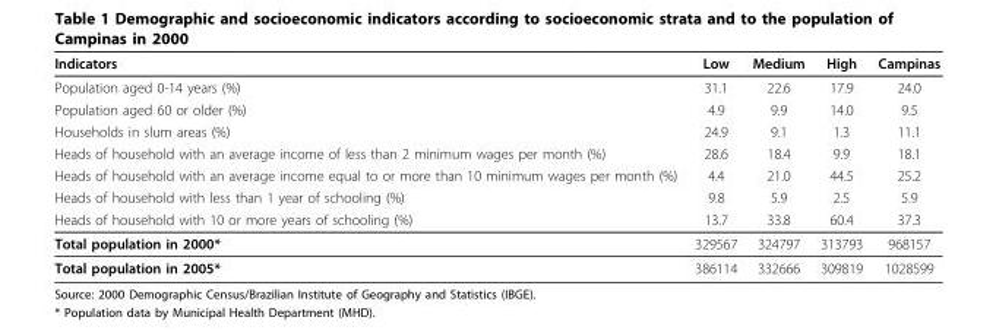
<table><thead><tr><td>Indicators</td><td>Low</td><td>Medium</td><td>High</td><td>Campinas</td></tr></thead><tbody><tr><td>Population aged 0-14 years (%)</td><td>31.1</td><td>22.6</td><td>17.9</td><td>24.0</td></tr><tr><td>Population aged 60 or older (%)</td><td>4.9</td><td>9.9</td><td>14.0</td><td>9.5</td></tr><tr><td>Households in slum areas (%)</td><td>24.9</td><td>9.1</td><td>1.3</td><td>11.1</td></tr><tr><td>Heads of household with an average income of less than 2 minimum wages per month (%)</td><td>28.6</td><td>18.4</td><td>9.9</td><td>18.1</td></tr><tr><td>Heads of household with an average income equal to or more than 10 minimum wages per month (%)</td><td>4.4</td><td>21.0</td><td>44.5</td><td>25.2</td></tr><tr><td>Heads of household with less than 1 year of schooling (%)</td><td>9.8</td><td>5.9</td><td>2.5</td><td>5.9</td></tr><tr><td>Heads of household with 10 or more years of schooling (%)</td><td>13.7</td><td>33.8</td><td>60.4</td><td>37.3</td></tr><tr><td>Total population in 2000*</td><td>329567</td><td>324797</td><td>313793</td><td>968157</td></tr><tr><td>Total population in 2005*</td><td>386114</td><td>332666</td><td>309819</td><td>1028599</td></tr></tbody></table>